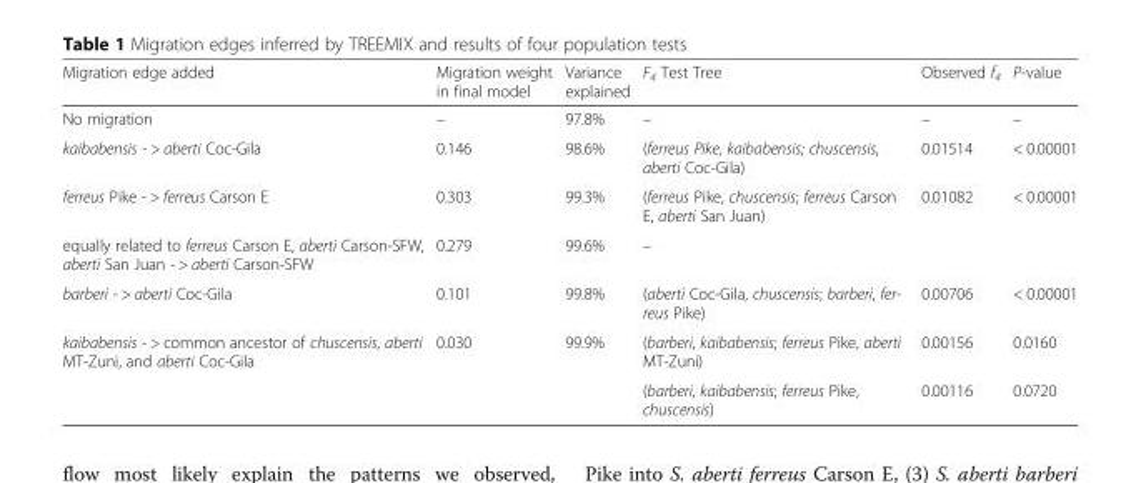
<table><thead><tr><td>Migration edge added</td><td>Migration weight in final model</td><td>Variance explained</td><td>F<sub>4</sub> Test Tree</td><td>Observed f<sub>4</sub></td><td>P-value</td></tr></thead><tbody><tr><td>No migration</td><td>–</td><td>97.8%</td><td>–</td><td>–</td><td>–</td></tr><tr><td>kaibabensis - &gt; aberti Coc-Gila</td><td>0.146</td><td>98.6%</td><td>(ferreus Pike, kaibabensis; chuscensis, aberti Coc-Gila)</td><td>0.01514</td><td>&lt; 0.00001</td></tr><tr><td>ferreus Pike - &gt; ferreus Carson E</td><td>0.303</td><td>99.3%</td><td>(ferreus Pike, chuscensis; ferreus Carson E, aberti San Juan)</td><td>0.01082</td><td>&lt; 0.00001</td></tr><tr><td>equally related to ferreus Carson E, aberti Carson-SFW, aberti San Juan - &gt; aberti Carson-SFW</td><td>0.279</td><td>99.6%</td><td>–</td><td></td><td></td></tr><tr><td>barberi - &gt; aberti Coc-Gila</td><td>0.101</td><td>99.8%</td><td>(aberti Coc-Gila, chuscensis; barberi, fer- reus Pike)</td><td>0.00706</td><td>&lt; 0.00001</td></tr><tr><td rowspan="2">kaibabensis - &gt; common ancestor of chuscensis, aberti MT-Zuni, and aberti Coc-Gila</td><td rowspan="2">0.030</td><td rowspan="2">99.9%</td><td>(barberi, kaibabensis; ferreus Pike, aberti MT-Zuni)</td><td>0.00156</td><td>0.0160</td></tr><tr><td>(barberi, kaibabensis; ferreus Pike, chuscensis)</td><td>0.00116</td><td>0.0720</td></tr></tbody></table>